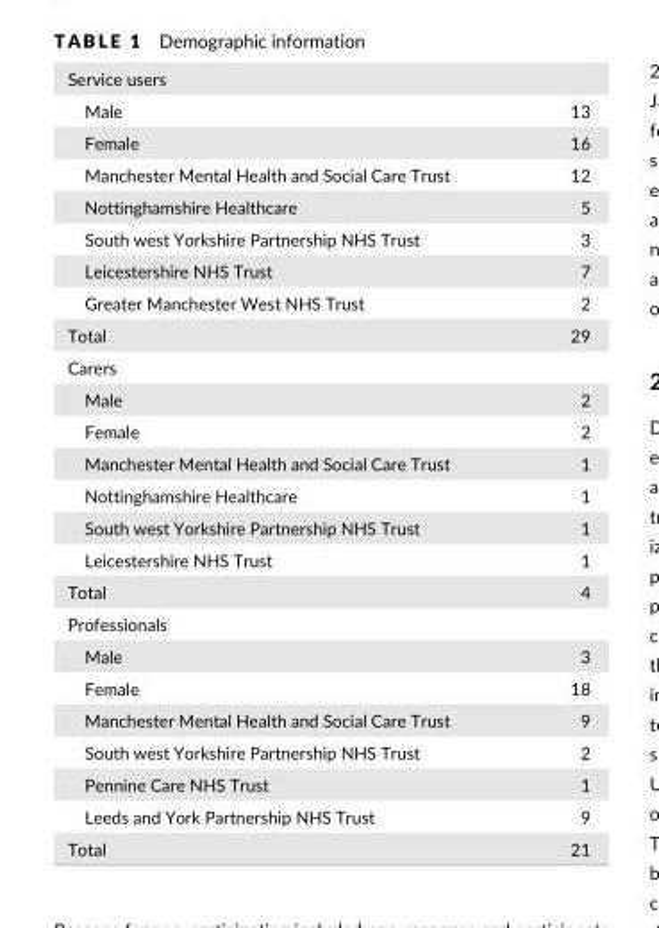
<table><tbody><tr><td colspan="2">Service users</td></tr><tr><td>Male</td><td>13</td></tr><tr><td>Female</td><td>16</td></tr><tr><td>Manchester Mental Health and Social Care Trust</td><td>12</td></tr><tr><td>Nottinghamshire Healthcare</td><td>5</td></tr><tr><td>South west Yorkshire Partnership NHS Trust</td><td>3</td></tr><tr><td>Leicestershire NHS Trust</td><td>7</td></tr><tr><td>Greater Manchester West NHS Trust</td><td>2</td></tr><tr><td>Total</td><td>29</td></tr><tr><td colspan="2">Carers</td></tr><tr><td>Male</td><td>2</td></tr><tr><td>Female</td><td>2</td></tr><tr><td>Manchester Mental Health and Social Care Trust</td><td>1</td></tr><tr><td>Nottinghamshire Healthcare</td><td>1</td></tr><tr><td>South west Yorkshire Partnership NHS Trust</td><td>1</td></tr><tr><td>Leicestershire NHS Trust</td><td>1</td></tr><tr><td>Total</td><td>4</td></tr><tr><td colspan="2">Professionals</td></tr><tr><td>Male</td><td>3</td></tr><tr><td>Female</td><td>18</td></tr><tr><td>Manchester Mental Health and Social Care Trust</td><td>9</td></tr><tr><td>South west Yorkshire Partnership NHS Trust</td><td>2</td></tr><tr><td>Pennine Care NHS Trust</td><td>1</td></tr><tr><td>Leeds and York Partnership NHS Trust</td><td>9</td></tr><tr><td>Total</td><td>21</td></tr></tbody></table>